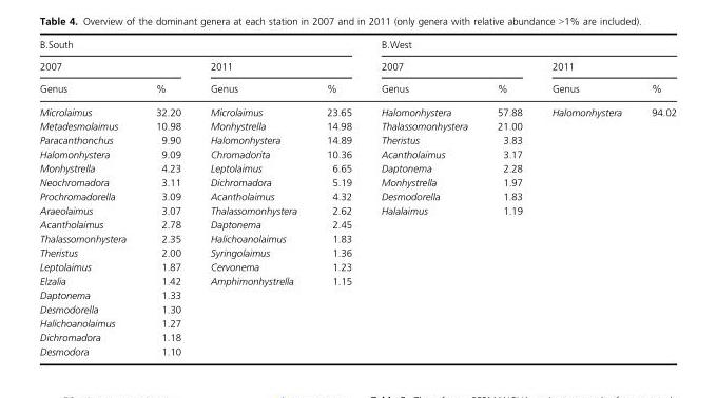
<table><thead><tr><td colspan="4">B.South</td><td colspan="4">B.West</td></tr><tr><td colspan="2">2007</td><td colspan="2">2011</td><td colspan="2">2007</td><td colspan="2">2011</td></tr><tr><td>Genus</td><td>%</td><td>Genus</td><td>%</td><td>Genus</td><td>%</td><td>Genus</td><td>%</td></tr></thead><tbody><tr><td>Microlaimus</td><td>32.20</td><td>Microlaimus</td><td>23.65</td><td>Halomonhystera</td><td>57.88</td><td>Halomonhystera</td><td>94.02</td></tr><tr><td>Metadesmolaimus</td><td>10.98</td><td>Monhystrella</td><td>14.98</td><td>Thalassomonhystera</td><td>21.00</td><td></td><td></td></tr><tr><td>Paracanthonchus</td><td>9.90</td><td>Halomonhystera</td><td>14.89</td><td>Theristus</td><td>3.83</td><td></td><td></td></tr><tr><td>Halomonhystera</td><td>9.09</td><td>Chromadorita</td><td>10.36</td><td>Acantholaimus</td><td>3.17</td><td></td><td></td></tr><tr><td>Monhystrella</td><td>4.23</td><td>Leptolaimus</td><td>6.65</td><td>Daptonema</td><td>2.28</td><td></td><td></td></tr><tr><td>Neochromadora</td><td>3.11</td><td>Dichromadora</td><td>5.19</td><td>Monhystrella</td><td>1.97</td><td></td><td></td></tr><tr><td>Prochromadorella</td><td>3.09</td><td>Acantholaimus</td><td>4.32</td><td>Desmodorella</td><td>1.83</td><td></td><td></td></tr><tr><td>Araeolaimus</td><td>3.07</td><td>Thalassomonhystera</td><td>2.62</td><td>Halalaimus</td><td>1.19</td><td></td><td></td></tr><tr><td>Acantholaimus</td><td>2.78</td><td>Daptonema</td><td>2.45</td><td></td><td></td><td></td><td></td></tr><tr><td>Thalassomonhystera</td><td>2.35</td><td>Halichoanolaimus</td><td>1.83</td><td></td><td></td><td></td><td></td></tr><tr><td>Theristus</td><td>2.00</td><td>Syringolaimus</td><td>1.36</td><td></td><td></td><td></td><td></td></tr><tr><td>Leptolaimus</td><td>1.87</td><td>Cervonema</td><td>1.23</td><td></td><td></td><td></td><td></td></tr><tr><td>Elzalia</td><td>1.42</td><td>Amphimonhystrella</td><td>1.15</td><td></td><td></td><td></td><td></td></tr><tr><td>Daptonema</td><td>1.33</td><td></td><td></td><td></td><td></td><td></td><td></td></tr><tr><td>Desmodorella</td><td>1.30</td><td></td><td></td><td></td><td></td><td></td><td></td></tr><tr><td>Halichoanolaimus</td><td>1.27</td><td></td><td></td><td></td><td></td><td></td><td></td></tr><tr><td>Dichromadora</td><td>1.18</td><td></td><td></td><td></td><td></td><td></td><td></td></tr><tr><td>Desmodora</td><td>1.10</td><td></td><td></td><td></td><td></td><td></td><td></td></tr></tbody></table>